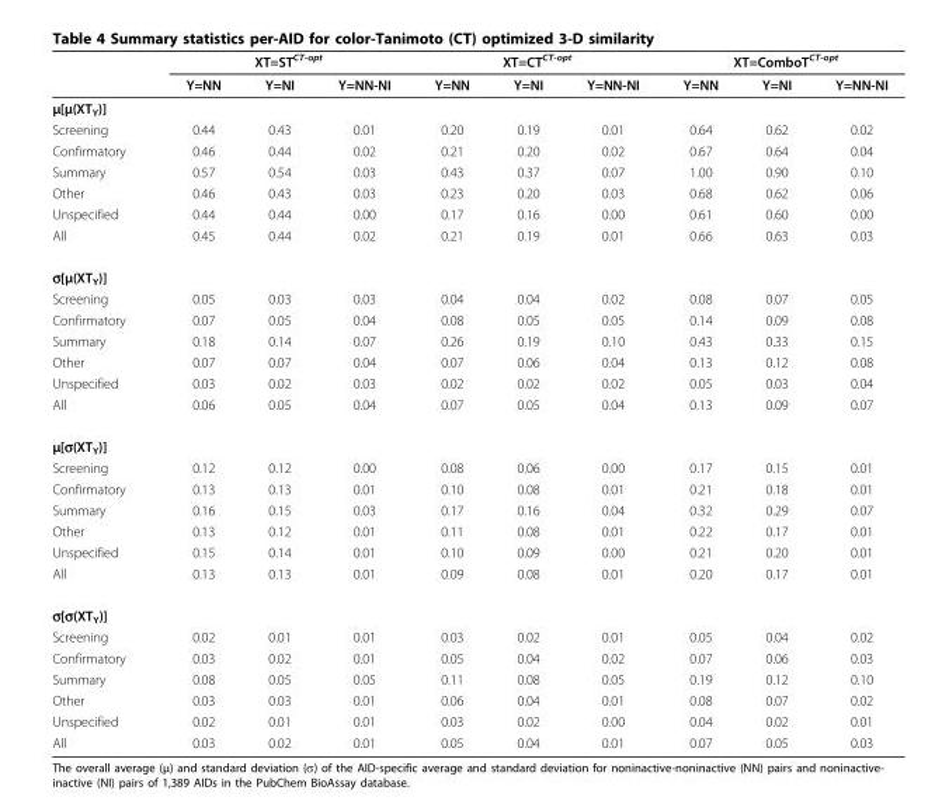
<table><thead><tr><td rowspan="2"></td><td colspan="3">XT=ST<sup>CT-opt</sup></td><td colspan="3">XT=CT<sup>CT-opt</sup></td><td colspan="3">XT=ComboT<sup>CT-opt</sup></td></tr><tr><td>Y=NN</td><td>Y=NI</td><td>Y=NN-NI</td><td>Y=NN</td><td>Y=NI</td><td>Y=NN-NI</td><td>Y=NN</td><td>Y=NI</td><td>Y=NN-NI</td></tr></thead><tbody><tr><td colspan="10">μ[μ(XT<sub>Y</sub>)]</td></tr><tr><td>Screening</td><td>0.44</td><td>0.43</td><td>0.01</td><td>0.20</td><td>0.19</td><td>0.01</td><td>0.64</td><td>0.62</td><td>0.02</td></tr><tr><td>Confirmatory</td><td>0.46</td><td>0.44</td><td>0.02</td><td>0.21</td><td>0.20</td><td>0.02</td><td>0.67</td><td>0.64</td><td>0.04</td></tr><tr><td>Summary</td><td>0.57</td><td>0.54</td><td>0.03</td><td>0.43</td><td>0.37</td><td>0.07</td><td>1.00</td><td>0.90</td><td>0.10</td></tr><tr><td>Other</td><td>0.46</td><td>0.43</td><td>0.03</td><td>0.23</td><td>0.20</td><td>0.03</td><td>0.68</td><td>0.62</td><td>0.06</td></tr><tr><td>Unspecified</td><td>0.44</td><td>0.44</td><td>0.00</td><td>0.17</td><td>0.16</td><td>0.00</td><td>0.61</td><td>0.60</td><td>0.00</td></tr><tr><td>All</td><td>0.45</td><td>0.44</td><td>0.02</td><td>0.21</td><td>0.19</td><td>0.01</td><td>0.66</td><td>0.63</td><td>0.03</td></tr><tr><td colspan="10">σ[μ(XT<sub>Y</sub>)]</td></tr><tr><td>Screening</td><td>0.05</td><td>0.03</td><td>0.03</td><td>0.04</td><td>0.04</td><td>0.02</td><td>0.08</td><td>0.07</td><td>0.05</td></tr><tr><td>Confirmatory</td><td>0.07</td><td>0.05</td><td>0.04</td><td>0.08</td><td>0.05</td><td>0.05</td><td>0.14</td><td>0.09</td><td>0.08</td></tr><tr><td>Summary</td><td>0.18</td><td>0.14</td><td>0.07</td><td>0.26</td><td>0.19</td><td>0.10</td><td>0.43</td><td>0.33</td><td>0.15</td></tr><tr><td>Other</td><td>0.07</td><td>0.07</td><td>0.04</td><td>0.07</td><td>0.06</td><td>0.04</td><td>0.13</td><td>0.12</td><td>0.08</td></tr><tr><td>Unspecified</td><td>0.03</td><td>0.02</td><td>0.03</td><td>0.02</td><td>0.02</td><td>0.02</td><td>0.05</td><td>0.03</td><td>0.04</td></tr><tr><td>All</td><td>0.06</td><td>0.05</td><td>0.04</td><td>0.07</td><td>0.05</td><td>0.04</td><td>0.13</td><td>0.09</td><td>0.07</td></tr><tr><td colspan="10">μ[σ(XT<sub>Y</sub>)]</td></tr><tr><td>Screening</td><td>0.12</td><td>0.12</td><td>0.00</td><td>0.08</td><td>0.06</td><td>0.00</td><td>0.17</td><td>0.15</td><td>0.01</td></tr><tr><td>Confirmatory</td><td>0.13</td><td>0.13</td><td>0.01</td><td>0.10</td><td>0.08</td><td>0.01</td><td>0.21</td><td>0.18</td><td>0.01</td></tr><tr><td>Summary</td><td>0.16</td><td>0.15</td><td>0.03</td><td>0.17</td><td>0.16</td><td>0.04</td><td>0.32</td><td>0.29</td><td>0.07</td></tr><tr><td>Other</td><td>0.13</td><td>0.12</td><td>0.01</td><td>0.11</td><td>0.08</td><td>0.01</td><td>0.22</td><td>0.17</td><td>0.01</td></tr><tr><td>Unspecified</td><td>0.15</td><td>0.14</td><td>0.01</td><td>0.10</td><td>0.09</td><td>0.00</td><td>0.21</td><td>0.20</td><td>0.01</td></tr><tr><td>All</td><td>0.13</td><td>0.13</td><td>0.01</td><td>0.09</td><td>0.08</td><td>0.01</td><td>0.20</td><td>0.17</td><td>0.01</td></tr><tr><td colspan="10">σ[σ(XT<sub>Y</sub>)]</td></tr><tr><td>Screening</td><td>0.02</td><td>0.01</td><td>0.01</td><td>0.03</td><td>0.02</td><td>0.01</td><td>0.05</td><td>0.04</td><td>0.02</td></tr><tr><td>Confirmatory</td><td>0.03</td><td>0.02</td><td>0.01</td><td>0.05</td><td>0.04</td><td>0.02</td><td>0.07</td><td>0.06</td><td>0.03</td></tr><tr><td>Summary</td><td>0.08</td><td>0.05</td><td>0.05</td><td>0.11</td><td>0.08</td><td>0.05</td><td>0.19</td><td>0.12</td><td>0.10</td></tr><tr><td>Other</td><td>0.03</td><td>0.03</td><td>0.01</td><td>0.06</td><td>0.04</td><td>0.01</td><td>0.08</td><td>0.07</td><td>0.02</td></tr><tr><td>Unspecified</td><td>0.02</td><td>0.01</td><td>0.01</td><td>0.03</td><td>0.02</td><td>0.00</td><td>0.04</td><td>0.02</td><td>0.01</td></tr><tr><td>All</td><td>0.03</td><td>0.02</td><td>0.01</td><td>0.05</td><td>0.04</td><td>0.01</td><td>0.07</td><td>0.05</td><td>0.03</td></tr></tbody></table>